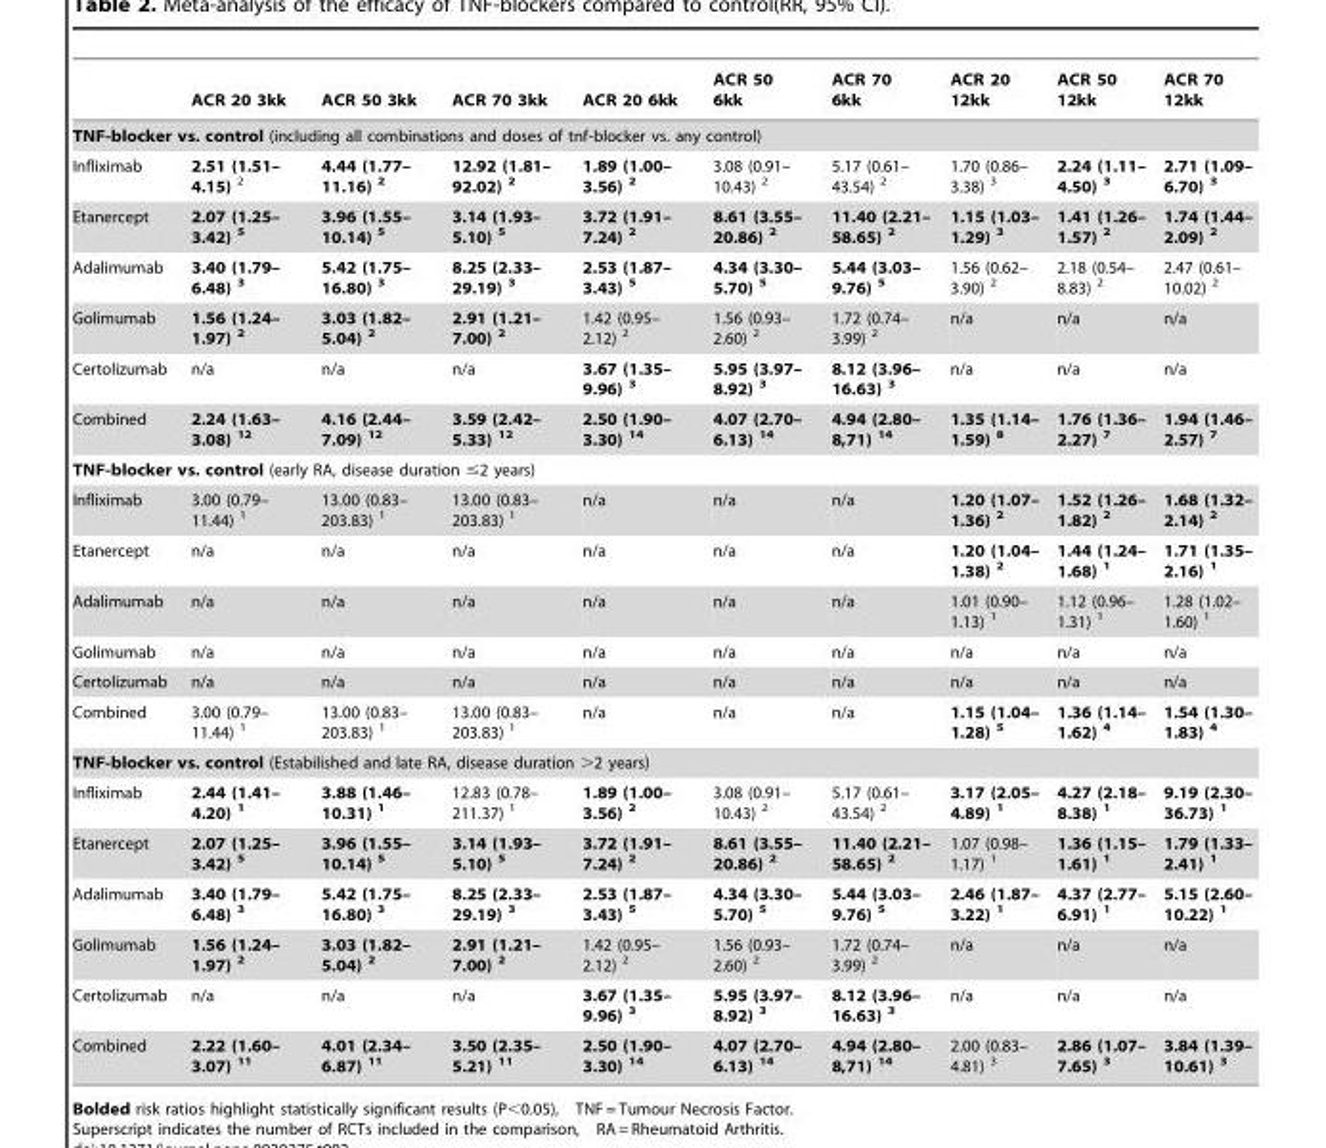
<table><thead><tr><td></td><td>ACR 20 3kk</td><td>ACR 50 3kk</td><td>ACR 70 3kk</td><td>ACR 20 6kk</td><td>ACR 50 6kk</td><td>ACR 70 6kk</td><td>ACR 20 12kk</td><td>ACR 50 12kk</td><td>ACR 70 12kk</td></tr></thead><tbody><tr><td colspan="10">TNF-blocker vs. control (including all combinations and doses of tnf-blocker vs. any control)</td></tr><tr><td>Infliximab</td><td>2.51 (1.51– 4.15) <sup>2</sup></td><td>4.44 (1.77– 11.16) <sup>2</sup></td><td>12.92 (1.81– 92.02) <sup>2</sup></td><td>1.89 (1.00– 3.56) <sup>2</sup></td><td>3.08 (0.91– 10.43) <sup>2</sup></td><td>5.17 (0.61– 43.54) <sup>2</sup></td><td>1.70 (0.86– 3.38) <sup>3</sup></td><td>2.24 (1.11– 4.50) <sup>3</sup></td><td>2.71 (1.09– 6.70) <sup>3</sup></td></tr><tr><td>Etanercept</td><td>2.07 (1.25– 3.42) <sup>5</sup></td><td>3.96 (1.55– 10.14) <sup>5</sup></td><td>3.14 (1.93– 5.10) <sup>5</sup></td><td>3.72 (1.91– 7.24) <sup>2</sup></td><td>8.61 (3.55– 20.86) <sup>2</sup></td><td>11.40 (2.21– 58.65) <sup>2</sup></td><td>1.15 (1.03– 1.29) <sup>3</sup></td><td>1.41 (1.26– 1.57) <sup>2</sup></td><td>1.74 (1.44– 2.09) <sup>2</sup></td></tr><tr><td>Adalimumab</td><td>3.40 (1.79– 6.48) <sup>3</sup></td><td>5.42 (1.75– 16.80) <sup>3</sup></td><td>8.25 (2.33– 29.19) <sup>3</sup></td><td>2.53 (1.87– 3.43) <sup>5</sup></td><td>4.34 (3.30– 5.70) <sup>5</sup></td><td>5.44 (3.03– 9.76) <sup>5</sup></td><td>1.56 (0.62– 3.90) <sup>2</sup></td><td>2.18 (0.54– 8.83) <sup>2</sup></td><td>2.47 (0.61– 10.02) <sup>2</sup></td></tr><tr><td>Golimumab</td><td>1.56 (1.24– 1.97) <sup>2</sup></td><td>3.03 (1.82– 5.04) <sup>2</sup></td><td>2.91 (1.21– 7.00) <sup>2</sup></td><td>1.42 (0.95– 2.12) <sup>2</sup></td><td>1.56 (0.93– 2.60) <sup>2</sup></td><td>1.72 (0.74– 3.99) <sup>2</sup></td><td>n/a</td><td>n/a</td><td>n/a</td></tr><tr><td>Certolizumab</td><td>n/a</td><td>n/a</td><td>n/a</td><td>3.67 (1.35– 9.96) <sup>3</sup></td><td>5.95 (3.97– 8.92) <sup>3</sup></td><td>8.12 (3.96– 16.63) <sup>3</sup></td><td>n/a</td><td>n/a</td><td>n/a</td></tr><tr><td>Combined</td><td>2.24 (1.63– 3.08) <sup>12</sup></td><td>4.16 (2.44– 7.09) <sup>12</sup></td><td>3.59 (2.42– 5.33) <sup>12</sup></td><td>2.50 (1.90– 3.30) <sup>14</sup></td><td>4.07 (2.70– 6.13) <sup>14</sup></td><td>4.94 (2.80– 8,71) <sup>14</sup></td><td>1.35 (1.14– 1.59) <sup>8</sup></td><td>1.76 (1.36– 2.27) <sup>7</sup></td><td>1.94 (1.46– 2.57) <sup>7</sup></td></tr><tr><td colspan="10">TNF-blocker vs. control (early RA, disease duration ≤2 years)</td></tr><tr><td>Infliximab</td><td>3.00 (0.79– 11.44) <sup>1</sup></td><td>13.00 (0.83– 203.83) <sup>1</sup></td><td>13.00 (0.83– 203.83) <sup>1</sup></td><td>n/a</td><td>n/a</td><td>n/a</td><td>1.20 (1.07– 1.36) <sup>2</sup></td><td>1.52 (1.26– 1.82) <sup>2</sup></td><td>1.68 (1.32– 2.14) <sup>2</sup></td></tr><tr><td>Etanercept</td><td>n/a</td><td>n/a</td><td>n/a</td><td>n/a</td><td>n/a</td><td>n/a</td><td>1.20 (1.04– 1.38) <sup>2</sup></td><td>1.44 (1.24– 1.68) <sup>1</sup></td><td>1.71 (1.35– 2.16) <sup>1</sup></td></tr><tr><td>Adalimumab</td><td>n/a</td><td>n/a</td><td>n/a</td><td>n/a</td><td>n/a</td><td>n/a</td><td>1.01 (0.90– 1.13) <sup>1</sup></td><td>1.12 (0.96– 1.31) <sup>1</sup></td><td>1.28 (1.02– 1.60) <sup>1</sup></td></tr><tr><td>Golimumab</td><td>n/a</td><td>n/a</td><td>n/a</td><td>n/a</td><td>n/a</td><td>n/a</td><td>n/a</td><td>n/a</td><td>n/a</td></tr><tr><td>Certolizumab</td><td>n/a</td><td>n/a</td><td>n/a</td><td>n/a</td><td>n/a</td><td>n/a</td><td>n/a</td><td>n/a</td><td>n/a</td></tr><tr><td>Combined</td><td>3.00 (0.79– 11.44) <sup>1</sup></td><td>13.00 (0.83– 203.83) <sup>1</sup></td><td>13.00 (0.83– 203.83) <sup>1</sup></td><td>n/a</td><td>n/a</td><td>n/a</td><td>1.15 (1.04– 1.28) <sup>5</sup></td><td>1.36 (1.14– 1.62) <sup>4</sup></td><td>1.54 (1.30– 1.83) <sup>4</sup></td></tr><tr><td colspan="10">TNF-blocker vs. control (Estabilished and late RA, disease duration &gt;2 years)</td></tr><tr><td>Infliximab</td><td>2.44 (1.41– 4.20) <sup>1</sup></td><td>3.88 (1.46– 10.31) <sup>1</sup></td><td>12.83 (0.78– 211.37) <sup>1</sup></td><td>1.89 (1.00– 3.56) <sup>2</sup></td><td>3.08 (0.91– 10.43) <sup>2</sup></td><td>5.17 (0.61– 43.54) <sup>2</sup></td><td>3.17 (2.05– 4.89) <sup>1</sup></td><td>4.27 (2.18– 8.38) <sup>1</sup></td><td>9.19 (2.30– 36.73) <sup>1</sup></td></tr><tr><td>Etanercept</td><td>2.07 (1.25– 3.42) <sup>5</sup></td><td>3.96 (1.55– 10.14) <sup>5</sup></td><td>3.14 (1.93– 5.10) <sup>5</sup></td><td>3.72 (1.91– 7.24) <sup>2</sup></td><td>8.61 (3.55– 20.86) <sup>2</sup></td><td>11.40 (2.21– 58.65) <sup>2</sup></td><td>1.07 (0.98– 1.17) <sup>1</sup></td><td>1.36 (1.15– 1.61) <sup>1</sup></td><td>1.79 (1.33– 2.41) <sup>1</sup></td></tr><tr><td>Adalimumab</td><td>3.40 (1.79– 6.48) <sup>3</sup></td><td>5.42 (1.75– 16.80) <sup>3</sup></td><td>8.25 (2.33– 29.19) <sup>3</sup></td><td>2.53 (1.87– 3.43) <sup>5</sup></td><td>4.34 (3.30– 5.70) <sup>5</sup></td><td>5.44 (3.03– 9.76) <sup>5</sup></td><td>2.46 (1.87– 3.22) <sup>1</sup></td><td>4.37 (2.77– 6.91) <sup>1</sup></td><td>5.15 (2.60– 10.22) <sup>1</sup></td></tr><tr><td>Golimumab</td><td>1.56 (1.24– 1.97) <sup>2</sup></td><td>3.03 (1.82– 5.04) <sup>2</sup></td><td>2.91 (1.21– 7.00) <sup>2</sup></td><td>1.42 (0.95– 2.12) <sup>2</sup></td><td>1.56 (0.93– 2.60) <sup>2</sup></td><td>1.72 (0.74– 3.99) <sup>2</sup></td><td>n/a</td><td>n/a</td><td>n/a</td></tr><tr><td>Certolizumab</td><td>n/a</td><td>n/a</td><td>n/a</td><td>3.67 (1.35– 9.96) <sup>3</sup></td><td>5.95 (3.97– 8.92) <sup>3</sup></td><td>8.12 (3.96– 16.63) <sup>3</sup></td><td>n/a</td><td>n/a</td><td>n/a</td></tr><tr><td>Combined</td><td>2.22 (1.60– 3.07) <sup>11</sup></td><td>4.01 (2.34– 6.87) <sup>11</sup></td><td>3.50 (2.35– 5.21) <sup>11</sup></td><td>2.50 (1.90– 3.30) <sup>14</sup></td><td>4.07 (2.70– 6.13) <sup>14</sup></td><td>4.94 (2.80– 8,71) <sup>14</sup></td><td>2.00 (0.83– 4.81) <sup>3</sup></td><td>2.86 (1.07– 7.65) <sup>3</sup></td><td>3.84 (1.39– 10.61) <sup>3</sup></td></tr></tbody></table>